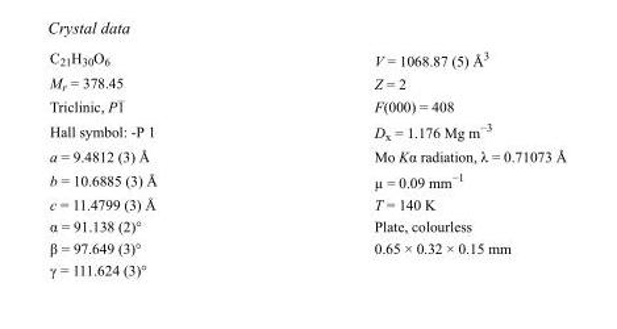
<table><tbody><tr><td>C<sub>21</sub>H<sub>30</sub>O<sub>6</sub></td><td>V = 1068.87 (5) Å<sup>3</sup></td></tr><tr><td>M<sub>r</sub> = 378.45</td><td>Z = 2</td></tr><tr><td>Triclinic, P1</td><td>F(000) = 408</td></tr><tr><td>Hall symbol: -P 1</td><td>D<sub>x</sub> = 1.176 Mg m<sup>−3</sup></td></tr><tr><td>a = 9.4812 (3) Å</td><td>Mo Kα radiation, λ = 0.71073 Å</td></tr><tr><td>b = 10.6885 (3) Å</td><td>µ = 0.09 mm<sup>−1</sup></td></tr><tr><td>c = 11.4799 (3) Å</td><td>T = 140 K</td></tr><tr><td>α = 91.138 (2)°</td><td>Plate, colourless</td></tr><tr><td>β = 97.649 (3)°</td><td>0.65 × 0.32 × 0.15 mm</td></tr><tr><td>γ = 111.624 (3)°</td><td></td></tr></tbody></table>